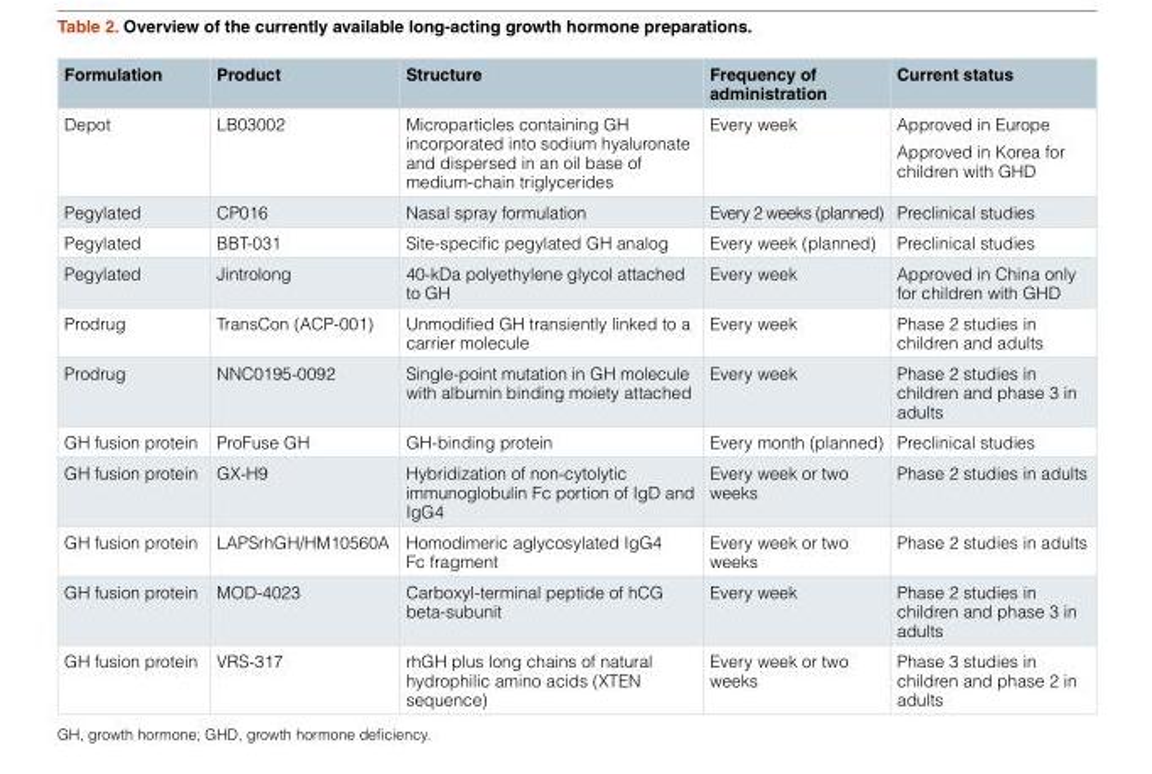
<table><thead><tr><td>Formulation</td><td>Product</td><td>Structure</td><td>Frequency of administration</td><td>Current status</td></tr></thead><tbody><tr><td>Depot</td><td>LB03002</td><td>Microparticles containing GH incorporated into sodium hyaluronate and dispersed in an oil base of medium-chain triglycerides</td><td>Every week</td><td>Approved in Europe Approved in Korea for children with GHD</td></tr><tr><td>Pegylated</td><td>CP016</td><td>Nasal spray formulation</td><td>Every 2 weeks (planned)</td><td>Preclinical studies</td></tr><tr><td>Pegylated</td><td>BBT-031</td><td>Site-specific pegylated GH analog</td><td>Every week (planned)</td><td>Preclinical studies</td></tr><tr><td>Pegylated</td><td>Jintrolong</td><td>40-kDa polyethylene glycol attached to GH</td><td>Every week</td><td>Approved in China only for children with GHD</td></tr><tr><td>Prodrug</td><td>TransCon (ACP-001)</td><td>Unmodified GH transiently linked to a carrier molecule</td><td>Every week</td><td>Phase 2 studies in children and adults</td></tr><tr><td>Prodrug</td><td>NNC0195-0092</td><td>Single-point mutation in GH molecule with albumin binding moiety attached</td><td>Every week</td><td>Phase 2 studies in children and phase 3 in adults</td></tr><tr><td>GH fusion protein</td><td>ProFuse GH</td><td>GH-binding protein</td><td>Every month (planned)</td><td>Preclinical studies</td></tr><tr><td>GH fusion protein</td><td>GX-H9</td><td>Hybridization of non-cytolytic immunoglobulin Fc portion of IgD and IgG4</td><td>Every week or two weeks</td><td>Phase 2 studies in adults</td></tr><tr><td>GH fusion protein</td><td>LAPSrhGH/HM10560A</td><td>Homodimeric aglycosylated IgG4 Fc fragment</td><td>Every week or two weeks</td><td>Phase 2 studies in adults</td></tr><tr><td>GH fusion protein</td><td>MOD-4023</td><td>Carboxyl-terminal peptide of hCG beta-subunit</td><td>Every week</td><td>Phase 2 studies in children and phase 3 in adults</td></tr><tr><td>GH fusion protein</td><td>VRS-317</td><td>rhGH plus long chains of natural hydrophilic amino acids (XTEN sequence)</td><td>Every week or two weeks</td><td>Phase 3 studies in children and phase 2 in adults</td></tr></tbody></table>